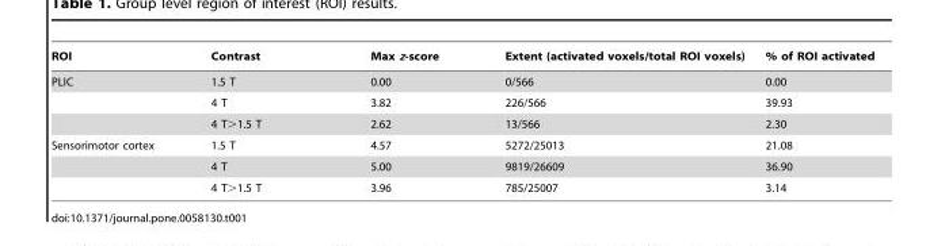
<table><thead><tr><td>ROI</td><td>Contrast</td><td>Max z-score</td><td>Extent (activated voxels/total ROI voxels)</td><td>% of ROI activated</td></tr></thead><tbody><tr><td rowspan="3">PLIC</td><td>1.5 T</td><td>0.00</td><td>0/566</td><td>0.00</td></tr><tr><td>4 T</td><td>3.82</td><td>226/566</td><td>39.93</td></tr><tr><td>4 T&gt;1.5 T</td><td>2.62</td><td>13/566</td><td>2.30</td></tr><tr><td rowspan="3">Sensorimotor cortex</td><td>1.5 T</td><td>4.57</td><td>5272/25013</td><td>21.08</td></tr><tr><td>4 T</td><td>5.00</td><td>9819/26609</td><td>36.90</td></tr><tr><td>4 T&gt;1.5 T</td><td>3.96</td><td>785/25007</td><td>3.14</td></tr></tbody></table>